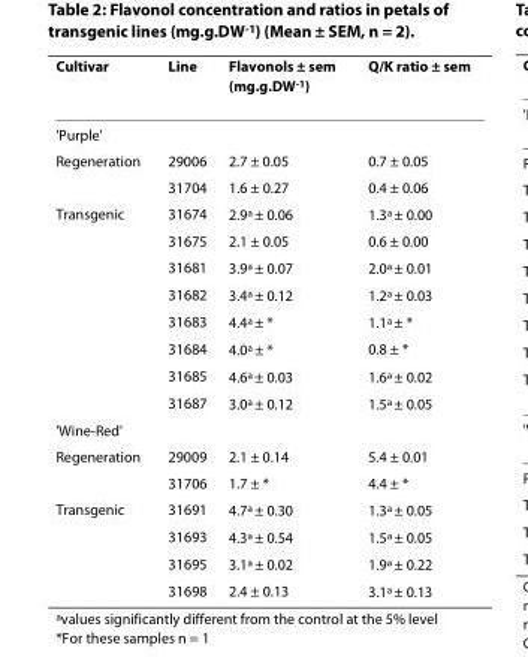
<table><thead><tr><td>Cultivar</td><td>Line</td><td>Flavonols ± sem (mg.g.DW<sup>-1</sup>)</td><td>Q/K ratio ± sem</td></tr></thead><tbody><tr><td colspan="4">&#x27;Purple&#x27;</td></tr><tr><td rowspan="2">Regeneration</td><td>29006</td><td>2.7 ± 0.05</td><td>0.7 ± 0.05</td></tr><tr><td>31704</td><td>1.6 ± 0.27</td><td>0.4 ± 0.06</td></tr><tr><td rowspan="8">Transgenic</td><td>31674</td><td>2.9<sup>a</sup> ± 0.06</td><td>1.3<sup>a</sup> ± 0.00</td></tr><tr><td>31675</td><td>2.1 ± 0.05</td><td>0.6 ± 0.00</td></tr><tr><td>31681</td><td>3.9<sup>a</sup> ± 0.07</td><td>2.0<sup>a</sup> ± 0.01</td></tr><tr><td>31682</td><td>3.4<sup>a</sup> ± 0.12</td><td>1.2<sup>a</sup> ± 0.03</td></tr><tr><td>31683</td><td>4.4<sup>a</sup> ± *</td><td>1.1<sup>a</sup> ± *</td></tr><tr><td>31684</td><td>4.0<sup>a</sup> ± *</td><td>0.8 ± *</td></tr><tr><td>31685</td><td>4.6<sup>a</sup> ± 0.03</td><td>1.6<sup>a</sup> ± 0.02</td></tr><tr><td>31687</td><td>3.0<sup>a</sup> ± 0.12</td><td>1.5<sup>a</sup> ± 0.05</td></tr><tr><td colspan="4">&#x27;Wine-Red&#x27;</td></tr><tr><td rowspan="2">Regeneration</td><td>29009</td><td>2.1 ± 0.14</td><td>5.4 ± 0.01</td></tr><tr><td>31706</td><td>1.7 ± *</td><td>4.4 ± *</td></tr><tr><td rowspan="4">Transgenic</td><td>31691</td><td>4.7<sup>a</sup> ± 0.30</td><td>1.3<sup>a</sup> ± 0.05</td></tr><tr><td>31693</td><td>4.3<sup>a</sup> ± 0.54</td><td>1.5<sup>a</sup> ± 0.05</td></tr><tr><td>31695</td><td>3.1<sup>a</sup> ± 0.02</td><td>1.9<sup>a</sup> ± 0.22</td></tr><tr><td>31698</td><td>2.4 ± 0.13</td><td>3.1<sup>a</sup> ± 0.13</td></tr></tbody></table>